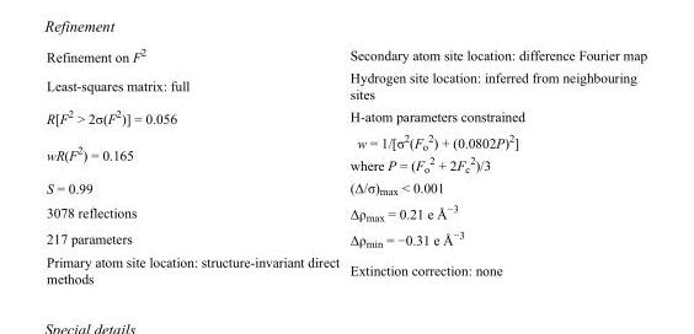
<table><tbody><tr><td>Refinement on F<sup>2</sup></td><td>Secondary atom site location: difference Fourier map</td></tr><tr><td>Least-squares matrix: full</td><td>Hydrogen site location: inferred from neighbouring sites</td></tr><tr><td>R[F<sup>2</sup> &gt; 2σ(F<sup>2</sup>)] = 0.056</td><td>H-atom parameters constrained</td></tr><tr><td>wR(F<sup>2</sup>) = 0.165</td><td>w = 1/[σ<sup>2</sup>(F<sub>o</sub> <sup>2</sup>) + (0.0802P)<sup>2</sup>] where P = (F<sub>o</sub> <sup>2</sup> + 2F<sub>c</sub> <sup>2</sup>)/3</td></tr><tr><td>S = 0.99</td><td>(Δ/σ)<sub>max</sub> &lt; 0.001</td></tr><tr><td>3078 reflections</td><td>Δρ<sub>max</sub> = 0.21 e Å<sup>−3</sup></td></tr><tr><td>217 parameters</td><td>Δρ<sub>min</sub> = −0.31 e Å<sup>−3</sup></td></tr><tr><td>Primary atom site location: structure-invariant direct methods</td><td>Extinction correction: none</td></tr></tbody></table>